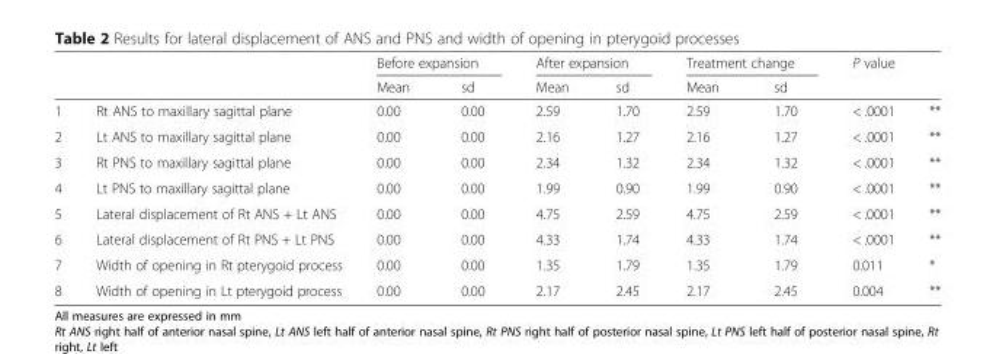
<table><thead><tr><td rowspan="3">1</td><td rowspan="3">Rt ANS to maxillary sagittal plane</td><td colspan="2">Before expansion</td><td colspan="2">After expansion</td><td colspan="2">Treatment change</td><td rowspan="2" colspan="2">P value</td></tr><tr><td rowspan="2">Mean 0.00</td><td rowspan="2">sd 0.00</td><td rowspan="2">Mean 2.59</td><td rowspan="2">sd 1.70</td><td rowspan="2">Mean 2.59</td><td rowspan="2">sd 1.70</td></tr><tr><td>&lt; .0001</td><td>**</td></tr></thead><tbody><tr><td>2</td><td>Lt ANS to maxillary sagittal plane</td><td>0.00</td><td>0.00</td><td>2.16</td><td>1.27</td><td>2.16</td><td>1.27</td><td>&lt; .0001</td><td>**</td></tr><tr><td>3</td><td>Rt PNS to maxillary sagittal plane</td><td>0.00</td><td>0.00</td><td>2.34</td><td>1.32</td><td>2.34</td><td>1.32</td><td>&lt; .0001</td><td>**</td></tr><tr><td>4</td><td>Lt PNS to maxillary sagittal plane</td><td>0.00</td><td>0.00</td><td>1.99</td><td>0.90</td><td>1.99</td><td>0.90</td><td>&lt; .0001</td><td>**</td></tr><tr><td>5</td><td>Lateral displacement of Rt ANS + Lt ANS</td><td>0.00</td><td>0.00</td><td>4.75</td><td>2.59</td><td>4.75</td><td>2.59</td><td>&lt; .0001</td><td>**</td></tr><tr><td>6</td><td>Lateral displacement of Rt PNS + Lt PNS</td><td>0.00</td><td>0.00</td><td>4.33</td><td>1.74</td><td>4.33</td><td>1.74</td><td>&lt; .0001</td><td>**</td></tr><tr><td>7</td><td>Width of opening in Rt pterygoid process</td><td>0.00</td><td>0.00</td><td>1.35</td><td>1.79</td><td>1.35</td><td>1.79</td><td>0.011</td><td>*</td></tr><tr><td>8</td><td>Width of opening in Lt pterygoid process</td><td>0.00</td><td>0.00</td><td>2.17</td><td>2.45</td><td>2.17</td><td>2.45</td><td>0.004</td><td>**</td></tr></tbody></table>